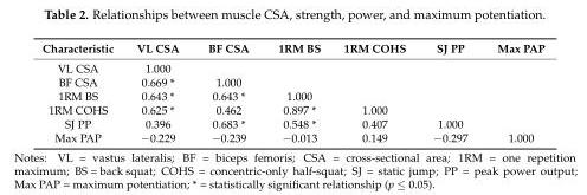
<table><thead><tr><td>Characteristic</td><td>VL CSA</td><td>BF CSA</td><td>1RM BS</td><td>1RM COHS</td><td>SJ PP</td><td>Max PAP</td></tr></thead><tbody><tr><td>VL CSA</td><td>1.000</td><td></td><td></td><td></td><td></td><td></td></tr><tr><td>BF CSA</td><td>0.669 *</td><td>1.000</td><td></td><td></td><td></td><td></td></tr><tr><td>1RM BS</td><td>0.643 *</td><td>0.643 *</td><td>1.000</td><td></td><td></td><td></td></tr><tr><td>1RM COHS</td><td>0.625 *</td><td>0.462</td><td>0.897 *</td><td>1.000</td><td></td><td></td></tr><tr><td>SJ PP</td><td>0.396</td><td>0.683 *</td><td>0.548 *</td><td>0.407</td><td>1.000</td><td></td></tr><tr><td>Max PAP</td><td>−0.229</td><td>−0.239</td><td>−0.013</td><td>0.149</td><td>−0.297</td><td>1.000</td></tr></tbody></table>